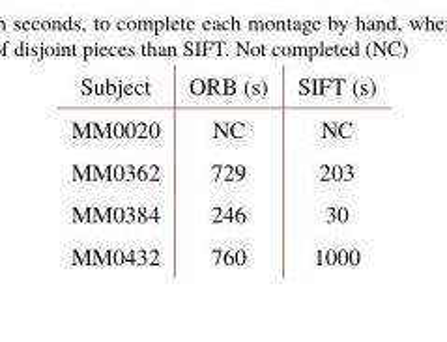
<table><thead><tr><td>Subject</td><td>ORB (s)</td><td>SIFT (s)</td></tr></thead><tbody><tr><td>MM0020</td><td>NC</td><td>NC</td></tr><tr><td>MM0362</td><td>729</td><td>203</td></tr><tr><td>MM0384</td><td>246</td><td>30</td></tr><tr><td>MM0432</td><td>760</td><td>1000</td></tr></tbody></table>